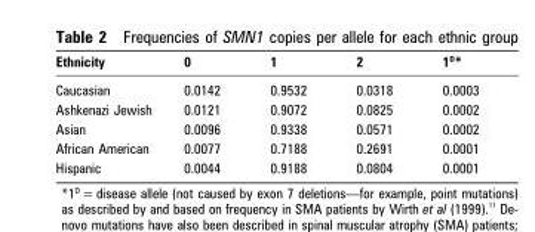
<table><thead><tr><td>Ethnicity</td><td>0</td><td>1</td><td>2</td><td>1<sup>D</sup>*</td></tr></thead><tbody><tr><td>Caucasian</td><td>0.0142</td><td>0.9532</td><td>0.0318</td><td>0.0003</td></tr><tr><td>Ashkenazi Jewish</td><td>0.0121</td><td>0.9072</td><td>0.0825</td><td>0.0002</td></tr><tr><td>Asian</td><td>0.0096</td><td>0.9338</td><td>0.0571</td><td>0.0002</td></tr><tr><td>African American</td><td>0.0077</td><td>0.7188</td><td>0.2691</td><td>0.0001</td></tr><tr><td>Hispanic</td><td>0.0044</td><td>0.9188</td><td>0.0804</td><td>0.0001</td></tr></tbody></table>